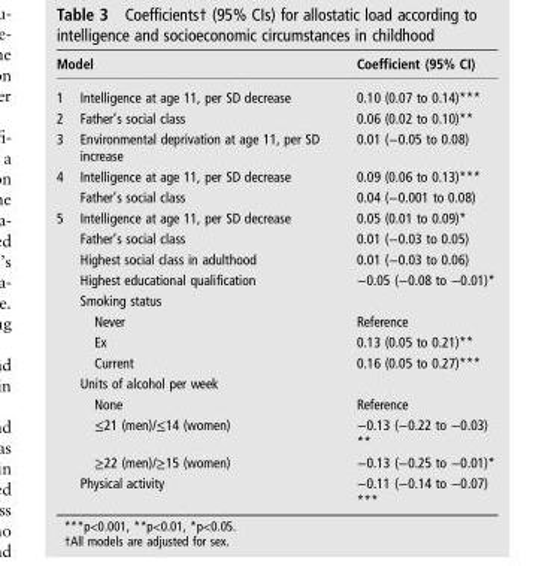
<table><thead><tr><td colspan="2">Model</td><td rowspan="2">Coefficient (95% CI) 0.10 (0.07 to 0.14)***</td></tr><tr><td>1</td><td>Intelligence at age 11, per SD decrease</td></tr></thead><tbody><tr><td>2</td><td>Father’s social class</td><td>0.06 (0.02 to 0.10)**</td></tr><tr><td>3</td><td>Environmental deprivation at age 11, per SD increase</td><td>0.01 (−0.05 to 0.08)</td></tr><tr><td rowspan="2">4</td><td>Intelligence at age 11, per SD decrease</td><td>0.09 (0.06 to 0.13)***</td></tr><tr><td>Father’s social class</td><td>0.04 (−0.001 to 0.08)</td></tr><tr><td rowspan="13">5</td><td>Intelligence at age 11, per SD decrease</td><td>0.05 (0.01 to 0.09)*</td></tr><tr><td>Father’s social class</td><td>0.01 (−0.03 to 0.05)</td></tr><tr><td>Highest social class in adulthood</td><td>0.01 (−0.03 to 0.06)</td></tr><tr><td>Highest educational qualification</td><td>−0.05 (−0.08 to −0.01)*</td></tr><tr><td>Smoking status</td><td></td></tr><tr><td>Never</td><td>Reference</td></tr><tr><td>Ex</td><td>0.13 (0.05 to 0.21)**</td></tr><tr><td>Current</td><td>0.16 (0.05 to 0.27)***</td></tr><tr><td>Units of alcohol per week</td><td></td></tr><tr><td>None</td><td>Reference</td></tr><tr><td>≤21 (men)/≤14 (women)</td><td>−0.13 (−0.22 to −0.03) **</td></tr><tr><td>≥22 (men)/≥15 (women)</td><td>−0.13 (−0.25 to −0.01)*</td></tr><tr><td>Physical activity</td><td>−0.11 (−0.14 to −0.07) ***</td></tr></tbody></table>